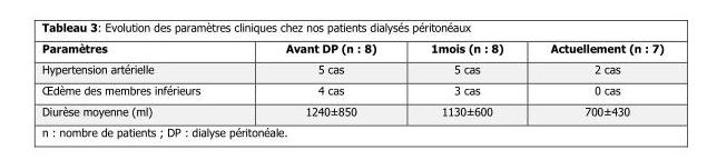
<table><thead><tr><td>Paramètres</td><td>Avant DP (n : 8)</td><td>1mois (n : 8)</td><td>Actuellement (n : 7)</td></tr></thead><tbody><tr><td>Hypertension artérielle</td><td>5 cas</td><td>5 cas</td><td>2 cas</td></tr><tr><td>Œdème des membres inférieurs</td><td>4 cas</td><td>3 cas</td><td>0 cas</td></tr><tr><td>Diurèse moyenne (ml)</td><td>1240±850</td><td>1130±600</td><td>700±430</td></tr></tbody></table>